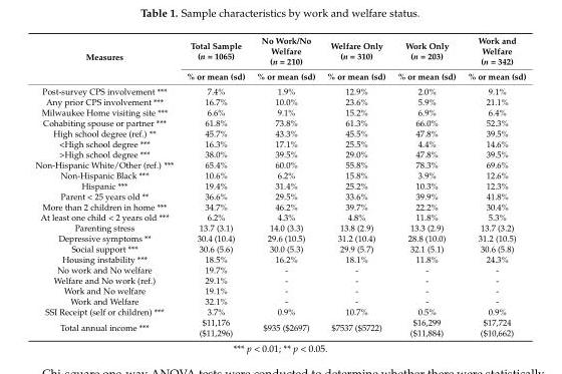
<table><thead><tr><td rowspan="2">Measures</td><td rowspan="2">Total Sample (n = 1065) % or mean (sd)</td><td rowspan="2">No Work/No Welfare (n = 210) % or mean (sd)</td><td rowspan="2">Welfare Only (n = 310) % or mean (sd)</td><td rowspan="2">Work Only (n = 203) % or mean (sd)</td><td rowspan="2">Work and Welfare (n = 342) % or mean (sd)</td></tr><tr></tr></thead><tbody><tr><td>Post-survey CPS involvement ***</td><td>7.4%</td><td>1.9%</td><td>12.9%</td><td>2.0%</td><td>9.1%</td></tr><tr><td>Any prior CPS involvement ***</td><td>16.7%</td><td>10.0%</td><td>23.6%</td><td>5.9%</td><td>21.1%</td></tr><tr><td>Milwaukee Home visiting site ***</td><td>6.6%</td><td>9.1%</td><td>15.2%</td><td>6.9%</td><td>6.4%</td></tr><tr><td>Cohabiting spouse or partner ***</td><td>61.8%</td><td>73.8%</td><td>61.3%</td><td>66.0%</td><td>52.3%</td></tr><tr><td>High school degree (ref.) **</td><td>45.7%</td><td>43.3%</td><td>45.5%</td><td>47.8%</td><td>39.5%</td></tr><tr><td>&lt;High school degree ***</td><td>16.3%</td><td>17.1%</td><td>25.5%</td><td>4.4%</td><td>14.6%</td></tr><tr><td>&gt;High school degree ***</td><td>38.0%</td><td>39.5%</td><td>29.0%</td><td>47.8%</td><td>39.5%</td></tr><tr><td>Non-Hispanic White/Other (ref.) ***</td><td>65.4%</td><td>60.0%</td><td>55.8%</td><td>78.3%</td><td>69.6%</td></tr><tr><td>Non-Hispanic Black ***</td><td>10.6%</td><td>6.2%</td><td>15.8%</td><td>3.9%</td><td>12.6%</td></tr><tr><td>Hispanic ***</td><td>19.4%</td><td>31.4%</td><td>25.2%</td><td>10.3%</td><td>12.3%</td></tr><tr><td>Parent &lt; 25 years old **</td><td>36.6%</td><td>29.5%</td><td>33.6%</td><td>39.9%</td><td>41.8%</td></tr><tr><td>More than 2 children in home ***</td><td>34.7%</td><td>46.2%</td><td>39.7%</td><td>22.2%</td><td>30.4%</td></tr><tr><td>At least one child &lt; 2 years old ***</td><td>6.2%</td><td>4.3%</td><td>4.8%</td><td>11.8%</td><td>5.3%</td></tr><tr><td>Parenting stress</td><td>13.7 (3.1)</td><td>14.0 (3.3)</td><td>13.8 (2.9)</td><td>13.3 (2.9)</td><td>13.7 (3.2)</td></tr><tr><td>Depressive symptoms **</td><td>30.4 (10.4)</td><td>29.6 (10.5)</td><td>31.2 (10.4)</td><td>28.8 (10.0)</td><td>31.2 (10.5)</td></tr><tr><td>Social support ***</td><td>30.6 (5.6)</td><td>30.0 (5.3)</td><td>29.9 (5.7)</td><td>32.1 (5.1)</td><td>30.6 (5.8)</td></tr><tr><td>Housing instability ***</td><td>18.5%</td><td>16.2%</td><td>18.1%</td><td>11.8%</td><td>24.3%</td></tr><tr><td>No work and No welfare</td><td>19.7%</td><td>-</td><td>-</td><td>-</td><td>-</td></tr><tr><td>Welfare and No work (ref.)</td><td>29.1%</td><td>-</td><td>-</td><td>-</td><td>-</td></tr><tr><td>Work and No welfare</td><td>19.1%</td><td>-</td><td>-</td><td>-</td><td>-</td></tr><tr><td>Work and Welfare</td><td>32.1%</td><td>-</td><td>-</td><td>-</td><td>-</td></tr><tr><td>SSI Receipt (self or children) ***</td><td>3.7%</td><td>0.9%</td><td>10.7%</td><td>0.5%</td><td>0.9%</td></tr><tr><td>Total annual income ***</td><td>$11,176 ($11,296)</td><td>$935 ($2697)</td><td>$7537 ($5722)</td><td>$16,299 ($11,884)</td><td>$17,724 ($10,662)</td></tr></tbody></table>